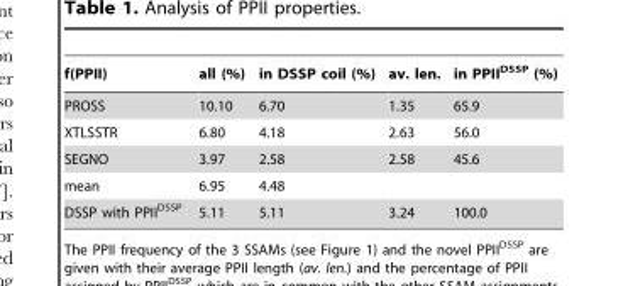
<table><thead><tr><td>f(PPII)</td><td>all (%)</td><td>in DSSP coil (%)</td><td>av. len.</td><td>in PPII<sup>DSSP</sup> (%)</td></tr></thead><tbody><tr><td>PROSS</td><td>10.10</td><td>6.70</td><td>1.35</td><td>65.9</td></tr><tr><td>XTLSSTR</td><td>6.80</td><td>4.18</td><td>2.63</td><td>56.0</td></tr><tr><td>SEGNO</td><td>3.97</td><td>2.58</td><td>2.58</td><td>45.6</td></tr><tr><td>mean</td><td>6.95</td><td>4.48</td><td></td><td></td></tr><tr><td>DSSP with PPII<sup>DSSP</sup></td><td>5.11</td><td>5.11</td><td>3.24</td><td>100.0</td></tr></tbody></table>